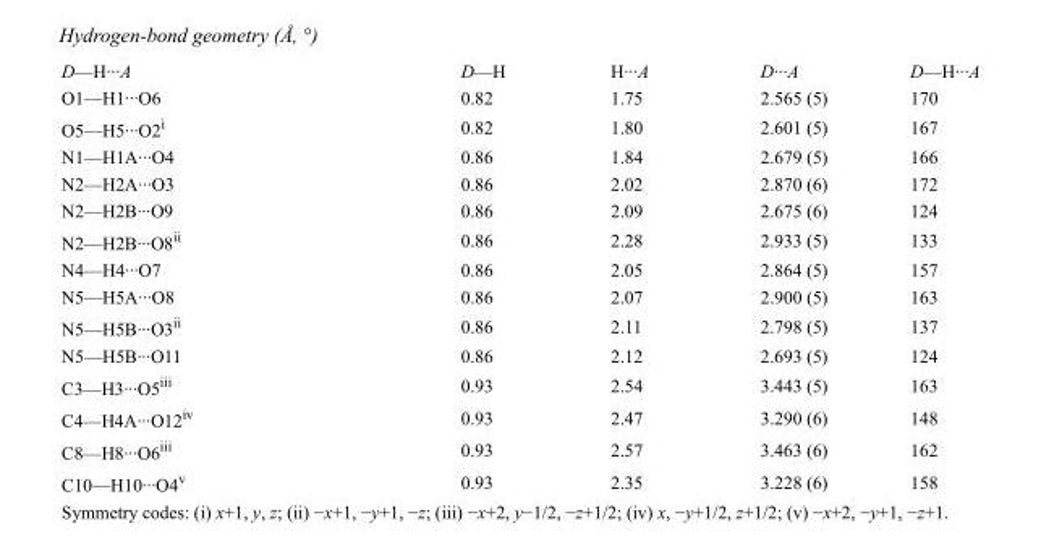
<table><tbody><tr><td>D—H···A</td><td>D—H</td><td>H···A</td><td>D···A</td><td>D—H···A</td></tr><tr><td>O1—H1···O6</td><td>0.82</td><td>1.75</td><td>2.565 (5)</td><td>170</td></tr><tr><td>O5—H5···O2<sup>i</sup></td><td>0.82</td><td>1.80</td><td>2.601 (5)</td><td>167</td></tr><tr><td>N1—H1A···O4</td><td>0.86</td><td>1.84</td><td>2.679 (5)</td><td>166</td></tr><tr><td>N2—H2A···O3</td><td>0.86</td><td>2.02</td><td>2.870 (6)</td><td>172</td></tr><tr><td>N2—H2B···O9</td><td>0.86</td><td>2.09</td><td>2.675 (6)</td><td>124</td></tr><tr><td>N2—H2B···O8<sup>ii</sup></td><td>0.86</td><td>2.28</td><td>2.933 (5)</td><td>133</td></tr><tr><td>N4—H4···O7</td><td>0.86</td><td>2.05</td><td>2.864 (5)</td><td>157</td></tr><tr><td>N5—H5A···O8</td><td>0.86</td><td>2.07</td><td>2.900 (5)</td><td>163</td></tr><tr><td>N5—H5B···O3<sup>ii</sup></td><td>0.86</td><td>2.11</td><td>2.798 (5)</td><td>137</td></tr><tr><td>N5—H5B···O11</td><td>0.86</td><td>2.12</td><td>2.693 (5)</td><td>124</td></tr><tr><td>C3—H3···O5<sup>iii</sup></td><td>0.93</td><td>2.54</td><td>3.443 (5)</td><td>163</td></tr><tr><td>C4—H4A···O12<sup>iv</sup></td><td>0.93</td><td>2.47</td><td>3.290 (6)</td><td>148</td></tr><tr><td>C8—H8···O6<sup>iii</sup></td><td>0.93</td><td>2.57</td><td>3.463 (6)</td><td>162</td></tr><tr><td>C10—H10···O4<sup>v</sup></td><td>0.93</td><td>2.35</td><td>3.228 (6)</td><td>158</td></tr></tbody></table>